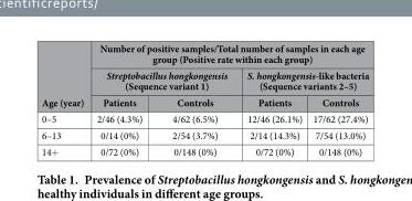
<table><thead><tr><td rowspan="3">Age (year)</td><td colspan="4">Number of positive samples/Total number of samples in each age group (Positive rate within each group)</td></tr><tr><td colspan="2">Streptobacillus hongkongensis (Sequence variant 1)</td><td colspan="2">S. hongkongensis-like bacteria (Sequence variants 2–5)</td></tr><tr><td>Patients</td><td>Controls</td><td>Patients</td><td>Controls</td></tr></thead><tbody><tr><td>0–5</td><td>2/46 (4.3%)</td><td>4/62 (6.5%)</td><td>12/46 (26.1%)</td><td>17/62 (27.4%)</td></tr><tr><td>6–13</td><td>0/14 (0%)</td><td>2/54 (3.7%)</td><td>2/14 (14.3%)</td><td>7/54 (13.0%)</td></tr><tr><td>14+</td><td>0/72 (0%)</td><td>0/148 (0%)</td><td>0/72 (0%)</td><td>0/148 (0%)</td></tr></tbody></table>